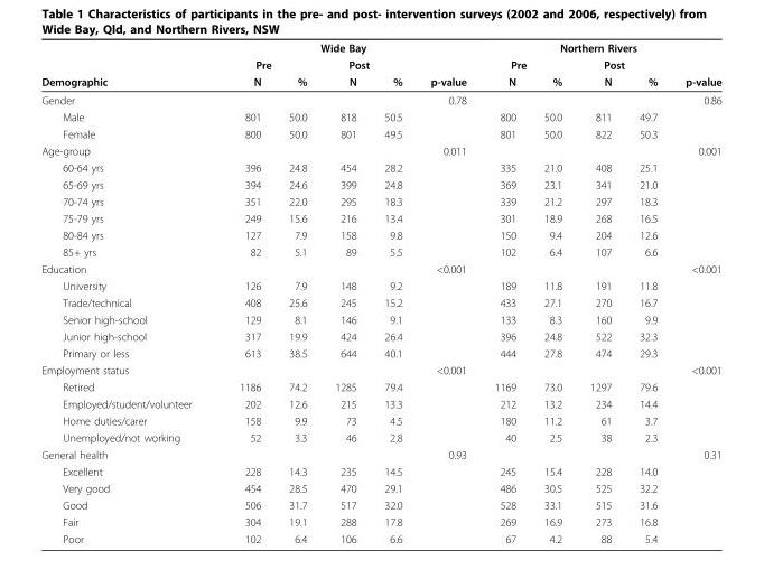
<table><thead><tr><td rowspan="3">Demographic</td><td colspan="5">Wide Bay</td><td colspan="5">Northern Rivers</td></tr><tr><td colspan="2">Pre</td><td colspan="2">Post</td><td rowspan="2">p-value</td><td colspan="2">Pre</td><td colspan="2">Post</td><td rowspan="2">p-value</td></tr><tr><td>N</td><td>%</td><td>N</td><td>%</td><td>N</td><td>%</td><td>N</td><td>%</td></tr></thead><tbody><tr><td>Gender</td><td></td><td></td><td></td><td></td><td>0.78</td><td></td><td></td><td></td><td></td><td>0.86</td></tr><tr><td>Male</td><td>801</td><td>50.0</td><td>818</td><td>50.5</td><td></td><td>800</td><td>50.0</td><td>811</td><td>49.7</td><td></td></tr><tr><td>Female</td><td>800</td><td>50.0</td><td>801</td><td>49.5</td><td></td><td>801</td><td>50.0</td><td>822</td><td>50.3</td><td></td></tr><tr><td>Age-group</td><td></td><td></td><td></td><td></td><td>0.011</td><td></td><td></td><td></td><td></td><td>0.001</td></tr><tr><td>60-64 yrs</td><td>396</td><td>24.8</td><td>454</td><td>28.2</td><td></td><td>335</td><td>21.0</td><td>408</td><td>25.1</td><td></td></tr><tr><td>65-69 yrs</td><td>394</td><td>24.6</td><td>399</td><td>24.8</td><td></td><td>369</td><td>23.1</td><td>341</td><td>21.0</td><td></td></tr><tr><td>70-74 yrs</td><td>351</td><td>22.0</td><td>295</td><td>18.3</td><td></td><td>339</td><td>21.2</td><td>297</td><td>18.3</td><td></td></tr><tr><td>75-79 yrs</td><td>249</td><td>15.6</td><td>216</td><td>13.4</td><td></td><td>301</td><td>18.9</td><td>268</td><td>16.5</td><td></td></tr><tr><td>80-84 yrs</td><td>127</td><td>7.9</td><td>158</td><td>9.8</td><td></td><td>150</td><td>9.4</td><td>204</td><td>12.6</td><td></td></tr><tr><td>85+ yrs</td><td>82</td><td>5.1</td><td>89</td><td>5.5</td><td></td><td>102</td><td>6.4</td><td>107</td><td>6.6</td><td></td></tr><tr><td>Education</td><td></td><td></td><td></td><td></td><td>&lt;0.001</td><td></td><td></td><td></td><td></td><td>&lt;0.001</td></tr><tr><td>University</td><td>126</td><td>7.9</td><td>148</td><td>9.2</td><td></td><td>189</td><td>11.8</td><td>191</td><td>11.8</td><td></td></tr><tr><td>Trade/technical</td><td>408</td><td>25.6</td><td>245</td><td>15.2</td><td></td><td>433</td><td>27.1</td><td>270</td><td>16.7</td><td></td></tr><tr><td>Senior high-school</td><td>129</td><td>8.1</td><td>146</td><td>9.1</td><td></td><td>133</td><td>8.3</td><td>160</td><td>9.9</td><td></td></tr><tr><td>Junior high-school</td><td>317</td><td>19.9</td><td>424</td><td>26.4</td><td></td><td>396</td><td>24.8</td><td>522</td><td>32.3</td><td></td></tr><tr><td>Primary or less</td><td>613</td><td>38.5</td><td>644</td><td>40.1</td><td></td><td>444</td><td>27.8</td><td>474</td><td>29.3</td><td></td></tr><tr><td>Employment status</td><td></td><td></td><td></td><td></td><td>&lt;0.001</td><td></td><td></td><td></td><td></td><td>&lt;0.001</td></tr><tr><td>Retired</td><td>1186</td><td>74.2</td><td>1285</td><td>79.4</td><td></td><td>1169</td><td>73.0</td><td>1297</td><td>79.6</td><td></td></tr><tr><td>Employed/student/volunteer</td><td>202</td><td>12.6</td><td>215</td><td>13.3</td><td></td><td>212</td><td>13.2</td><td>234</td><td>14.4</td><td></td></tr><tr><td>Home duties/carer</td><td>158</td><td>9.9</td><td>73</td><td>4.5</td><td></td><td>180</td><td>11.2</td><td>61</td><td>3.7</td><td></td></tr><tr><td>Unemployed/not working</td><td>52</td><td>3.3</td><td>46</td><td>2.8</td><td></td><td>40</td><td>2.5</td><td>38</td><td>2.3</td><td></td></tr><tr><td>General health</td><td></td><td></td><td></td><td></td><td>0.93</td><td></td><td></td><td></td><td></td><td>0.31</td></tr><tr><td>Excellent</td><td>228</td><td>14.3</td><td>235</td><td>14.5</td><td></td><td>245</td><td>15.4</td><td>228</td><td>14.0</td><td></td></tr><tr><td>Very good</td><td>454</td><td>28.5</td><td>470</td><td>29.1</td><td></td><td>486</td><td>30.5</td><td>525</td><td>32.2</td><td></td></tr><tr><td>Good</td><td>506</td><td>31.7</td><td>517</td><td>32.0</td><td></td><td>528</td><td>33.1</td><td>515</td><td>31.6</td><td></td></tr><tr><td>Fair</td><td>304</td><td>19.1</td><td>288</td><td>17.8</td><td></td><td>269</td><td>16.9</td><td>273</td><td>16.8</td><td></td></tr><tr><td>Poor</td><td>102</td><td>6.4</td><td>106</td><td>6.6</td><td></td><td>67</td><td>4.2</td><td>88</td><td>5.4</td><td></td></tr></tbody></table>